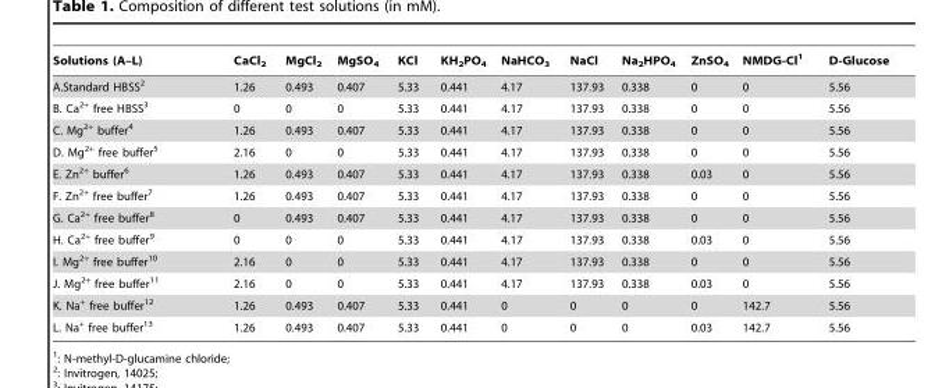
<table><thead><tr><td>Solutions (A–L)</td><td>CaCl<sub>2</sub></td><td>MgCl<sub>2</sub></td><td>MgSO<sub>4</sub></td><td>KCl</td><td>KH<sub>2</sub>PO<sub>4</sub></td><td>NaHCO<sub>3</sub></td><td>NaCl</td><td>Na<sub>2</sub>HPO<sub>4</sub></td><td>ZnSO<sub>4</sub></td><td>NMDG-Cl<sup>1</sup></td><td>D-Glucose</td></tr></thead><tbody><tr><td>A.Standard HBSS<sup>2</sup></td><td>1.26</td><td>0.493</td><td>0.407</td><td>5.33</td><td>0.441</td><td>4.17</td><td>137.93</td><td>0.338</td><td>0</td><td>0</td><td>5.56</td></tr><tr><td>B. Ca<sup>2+</sup> free HBSS<sup>3</sup></td><td>0</td><td>0</td><td>0</td><td>5.33</td><td>0.441</td><td>4.17</td><td>137.93</td><td>0.338</td><td>0</td><td>0</td><td>5.56</td></tr><tr><td>C. Mg<sup>2+</sup> buffer<sup>4</sup></td><td>1.26</td><td>0.493</td><td>0.407</td><td>5.33</td><td>0.441</td><td>4.17</td><td>137.93</td><td>0.338</td><td>0</td><td>0</td><td>5.56</td></tr><tr><td>D. Mg<sup>2+</sup> free buffer<sup>5</sup></td><td>2.16</td><td>0</td><td>0</td><td>5.33</td><td>0.441</td><td>4.17</td><td>137.93</td><td>0.338</td><td>0</td><td>0</td><td>5.56</td></tr><tr><td>E. Zn<sup>2+</sup> buffer<sup>6</sup></td><td>1.26</td><td>0.493</td><td>0.407</td><td>5.33</td><td>0.441</td><td>4.17</td><td>137.93</td><td>0.338</td><td>0.03</td><td>0</td><td>5.56</td></tr><tr><td>F. Zn<sup>2+</sup> free buffer<sup>7</sup></td><td>1.26</td><td>0.493</td><td>0.407</td><td>5.33</td><td>0.441</td><td>4.17</td><td>137.93</td><td>0.338</td><td>0</td><td>0</td><td>5.56</td></tr><tr><td>G. Ca<sup>2+</sup> free buffer<sup>8</sup></td><td>0</td><td>0.493</td><td>0.407</td><td>5.33</td><td>0.441</td><td>4.17</td><td>137.93</td><td>0.338</td><td>0</td><td>0</td><td>5.56</td></tr><tr><td>H. Ca<sup>2+</sup> free buffer<sup>9</sup></td><td>0</td><td>0</td><td>0</td><td>5.33</td><td>0.441</td><td>4.17</td><td>137.93</td><td>0.338</td><td>0.03</td><td>0</td><td>5.56</td></tr><tr><td>I. Mg<sup>2+</sup> free buffer<sup>10</sup></td><td>2.16</td><td>0</td><td>0</td><td>5.33</td><td>0.441</td><td>4.17</td><td>137.93</td><td>0.338</td><td>0</td><td>0</td><td>5.56</td></tr><tr><td>J. Mg<sup>2+</sup> free buffer<sup>11</sup></td><td>2.16</td><td>0</td><td>0</td><td>5.33</td><td>0.441</td><td>4.17</td><td>137.93</td><td>0.338</td><td>0.03</td><td>0</td><td>5.56</td></tr><tr><td>K. Na<sup>+</sup> free buffer<sup>12</sup></td><td>1.26</td><td>0.493</td><td>0.407</td><td>5.33</td><td>0.441</td><td>0</td><td>0</td><td>0</td><td>0</td><td>142.7</td><td>5.56</td></tr><tr><td>L. Na<sup>+</sup> free buffer<sup>13</sup></td><td>1.26</td><td>0.493</td><td>0.407</td><td>5.33</td><td>0.441</td><td>0</td><td>0</td><td>0</td><td>0.03</td><td>142.7</td><td>5.56</td></tr></tbody></table>